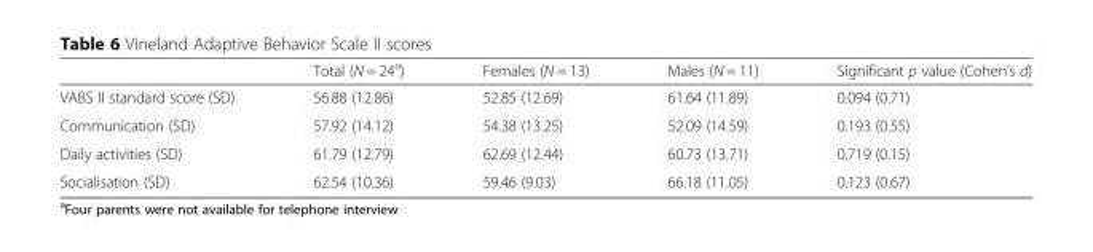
<table><thead><tr><td></td><td>Total (N = 24<sup>a</sup>)</td><td>Females (N = 13)</td><td>Males (N = 11)</td><td>Significant p value (Cohen’s d)</td></tr></thead><tbody><tr><td>VABS II standard score (SD)</td><td>56.88 (12.86)</td><td>52.85 (12.69)</td><td>61.64 (11.89)</td><td>0.094 (0.71)</td></tr><tr><td>Communication (SD)</td><td>57.92 (14.12)</td><td>54.38 (13.25)</td><td>52.09 (14.59)</td><td>0.193 (0.55)</td></tr><tr><td>Daily activities (SD)</td><td>61.79 (12.79)</td><td>62.69 (12.44)</td><td>60.73 (13.71)</td><td>0.719 (0.15)</td></tr><tr><td>Socialisation (SD)</td><td>62.54 (10.36)</td><td>59.46 (9.03)</td><td>66.18 (11.05)</td><td>0.123 (0.67)</td></tr></tbody></table>